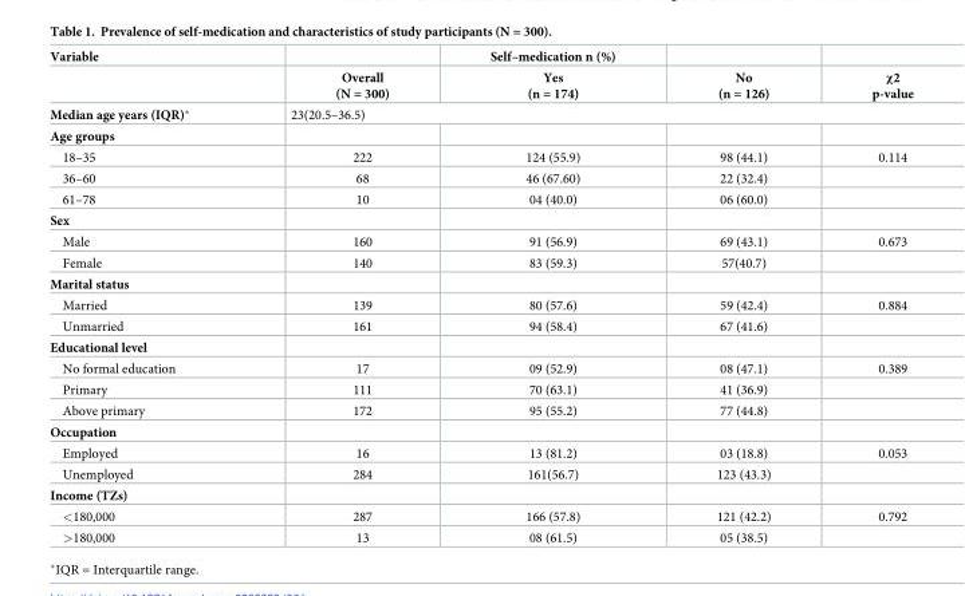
<table><thead><tr><td rowspan="2">Variable</td><td rowspan="2">Overall (N = 300)</td><td rowspan="2">Self–medication n (%) Yes (n = 174)</td><td rowspan="2">No (n = 126)</td><td rowspan="2">χ2 p-value</td></tr><tr></tr></thead><tbody><tr><td>Median age years (IQR)*</td><td colspan="4">23(20.5–36.5)</td></tr><tr><td colspan="5">Age groups</td></tr><tr><td>18–35</td><td>222</td><td>124 (55.9)</td><td>98 (44.1)</td><td>0.114</td></tr><tr><td>36–60</td><td>68</td><td>46 (67.60)</td><td>22 (32.4)</td><td></td></tr><tr><td>61–78</td><td>10</td><td>04 (40.0)</td><td>06 (60.0)</td><td></td></tr><tr><td colspan="5">Sex</td></tr><tr><td>Male</td><td>160</td><td>91 (56.9)</td><td>69 (43.1)</td><td>0.673</td></tr><tr><td>Female</td><td>140</td><td>83 (59.3)</td><td>57(40.7)</td><td></td></tr><tr><td colspan="5">Marital status</td></tr><tr><td>Married</td><td>139</td><td>80 (57.6)</td><td>59 (42.4)</td><td>0.884</td></tr><tr><td>Unmarried</td><td>161</td><td>94 (58.4)</td><td>67 (41.6)</td><td></td></tr><tr><td colspan="5">Educational level</td></tr><tr><td>No formal education</td><td>17</td><td>09 (52.9)</td><td>08 (47.1)</td><td>0.389</td></tr><tr><td>Primary</td><td>111</td><td>70 (63.1)</td><td>41 (36.9)</td><td></td></tr><tr><td>Above primary</td><td>172</td><td>95 (55.2)</td><td>77 (44.8)</td><td></td></tr><tr><td colspan="5">Occupation</td></tr><tr><td>Employed</td><td>16</td><td>13 (81.2)</td><td>03 (18.8)</td><td>0.053</td></tr><tr><td>Unemployed</td><td>284</td><td>161(56.7)</td><td>123 (43.3)</td><td></td></tr><tr><td colspan="5">Income (TZs)</td></tr><tr><td>&lt;180,000</td><td>287</td><td>166 (57.8)</td><td>121 (42.2)</td><td>0.792</td></tr><tr><td>&gt;180,000</td><td>13</td><td>08 (61.5)</td><td>05 (38.5)</td><td></td></tr></tbody></table>